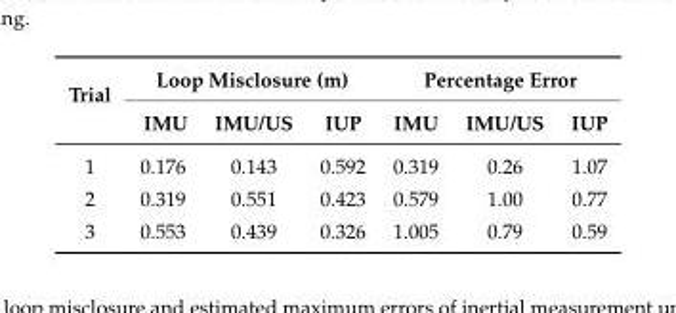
<table><thead><tr><td rowspan="2">Trial</td><td colspan="3">Loop Misclosure (m)</td><td colspan="3">Percentage Error</td></tr><tr><td>IMU</td><td>IMU/US</td><td>IUP</td><td>IMU</td><td>IMU/US</td><td>IUP</td></tr></thead><tbody><tr><td>1</td><td>0.176</td><td>0.143</td><td>0.592</td><td>0.319</td><td>0.26</td><td>1.07</td></tr><tr><td>2</td><td>0.319</td><td>0.551</td><td>0.423</td><td>0.579</td><td>1.00</td><td>0.77</td></tr><tr><td>3</td><td>0.553</td><td>0.439</td><td>0.326</td><td>1.005</td><td>0.79</td><td>0.59</td></tr></tbody></table>